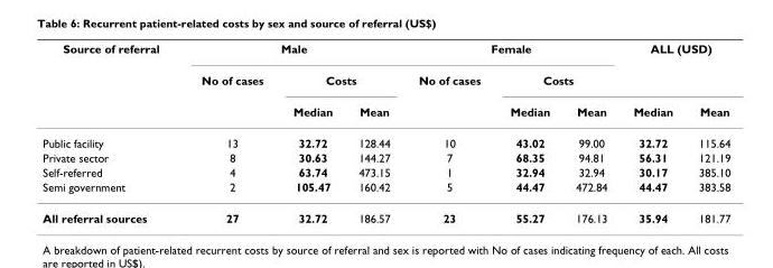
<table><thead><tr><td rowspan="3">Source of referral</td><td colspan="3">Male</td><td colspan="3">Female</td><td colspan="2">ALL (USD)</td></tr><tr><td rowspan="2">No of cases</td><td colspan="2">Costs</td><td rowspan="2">No of cases</td><td colspan="2">Costs</td><td rowspan="2">Median</td><td rowspan="2">Mean</td></tr><tr><td>Median</td><td>Mean</td><td>Median</td><td>Mean</td></tr></thead><tbody><tr><td>Public facility</td><td>13</td><td>32.72</td><td>128.44</td><td>10</td><td>43.02</td><td>99.00</td><td>32.72</td><td>115.64</td></tr><tr><td>Private sector</td><td>8</td><td>30.63</td><td>144.27</td><td>7</td><td>68.35</td><td>94.81</td><td>56.31</td><td>121.19</td></tr><tr><td>Self-referred</td><td>4</td><td>63.74</td><td>473.15</td><td>1</td><td>32.94</td><td>32.94</td><td>30.17</td><td>385.10</td></tr><tr><td>Semi government</td><td>2</td><td>105.47</td><td>160.42</td><td>5</td><td>44.47</td><td>472.84</td><td>44.47</td><td>383.58</td></tr><tr><td>All referral sources</td><td>27</td><td>32.72</td><td>186.57</td><td>23</td><td>55.27</td><td>176.13</td><td>35.94</td><td>181.77</td></tr></tbody></table>